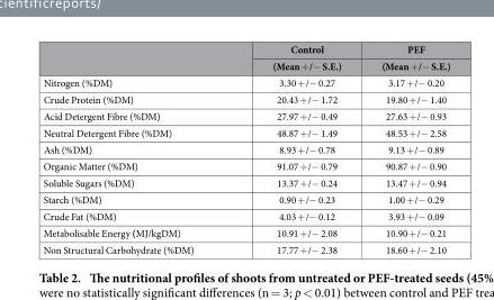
<table><thead><tr><td rowspan="2"></td><td rowspan="2">Control (Mean + /− S.E.)</td><td rowspan="2">PEF (Mean + /− S.E.)</td></tr><tr></tr></thead><tbody><tr><td>Nitrogen (%DM)</td><td>3.30 + /− 0.27</td><td>3.17 + /− 0.20</td></tr><tr><td>Crude Protein (%DM)</td><td>20.43 + /− 1.72</td><td>19.80 + /− 1.40</td></tr><tr><td>Acid Detergent Fibre (%DM)</td><td>27.97 + /− 0.49</td><td>27.63 + /− 0.93</td></tr><tr><td>Neutral Detergent Fibre (%DM)</td><td>48.87 + /− 1.49</td><td>48.53 + /− 2.58</td></tr><tr><td>Ash (%DM)</td><td>8.93 + /− 0.78</td><td>9.13 + /− 0.89</td></tr><tr><td>Organic Matter (%DM)</td><td>91.07 + /− 0.79</td><td>90.87 + /− 0.90</td></tr><tr><td>Soluble Sugars (%DM)</td><td>13.37 + /− 0.24</td><td>13.47 + /− 0.94</td></tr><tr><td>Starch (%DM)</td><td>0.90 + /− 0.23</td><td>1.00 + /− 0.29</td></tr><tr><td>Crude Fat (%DM)</td><td>4.03 + /− 0.12</td><td>3.93 + /− 0.09</td></tr><tr><td>Metabolisable Energy (MJ/kgDM)</td><td>10.91 + /− 2.08</td><td>10.90 + /− 0.21</td></tr><tr><td>Non Structural Carbohydrate (%DM)</td><td>17.77 + /− 2.38</td><td>18.60 + /− 2.10</td></tr></tbody></table>